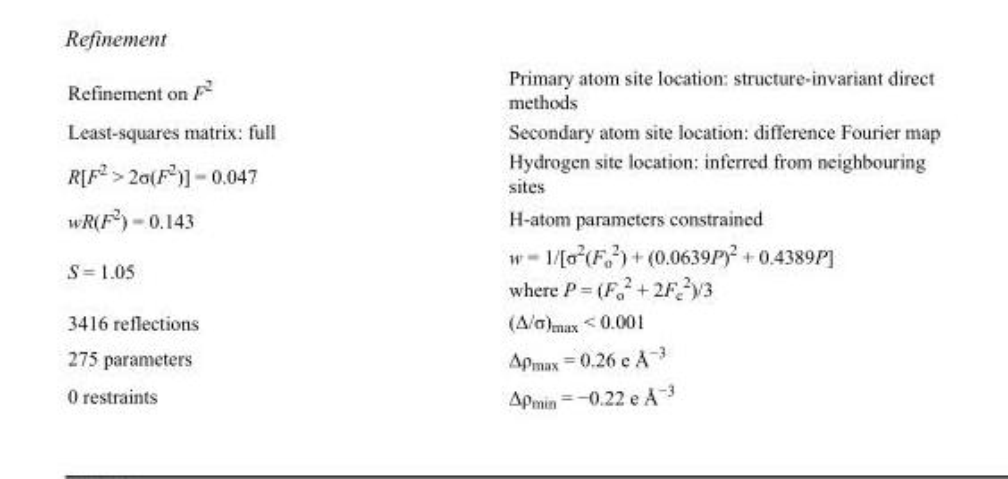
<table><tbody><tr><td>Refinement on F<sup>2</sup></td><td>Primary atom site location: structure-invariant direct methods</td></tr><tr><td>Least-squares matrix: full</td><td>Secondary atom site location: difference Fourier map</td></tr><tr><td>R[F<sup>2</sup> &gt; 2σ(F<sup>2</sup>)] = 0.047</td><td>Hydrogen site location: inferred from neighbouring sites</td></tr><tr><td>wR(F<sup>2</sup>) = 0.143</td><td>H-atom parameters constrained</td></tr><tr><td>S = 1.05</td><td>w = 1/[σ<sup>2</sup>(F<sub>o</sub> <sup>2</sup>) + (0.0639P)<sup>2</sup> + 0.4389P] where P = (F<sub>o</sub> <sup>2</sup> + 2F<sub>c</sub> <sup>2</sup>)/3</td></tr><tr><td>3416 reflections</td><td>(Δ/σ)<sub>max</sub> &lt; 0.001</td></tr><tr><td>275 parameters</td><td>Δρ<sub>max</sub> = 0.26 e Å<sup>−3</sup></td></tr><tr><td>0 restraints</td><td>Δρ<sub>min</sub> = −0.22 e Å<sup>−3</sup></td></tr></tbody></table>